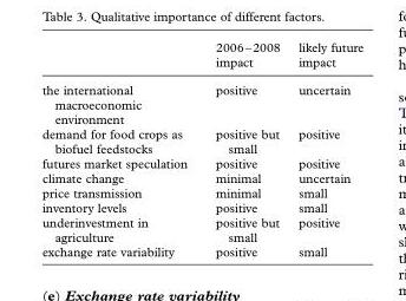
<table><thead><tr><td></td><td>2006–2008 impact</td><td>likely future impact</td></tr></thead><tbody><tr><td>the international macroeconomic environment</td><td>positive</td><td>uncertain</td></tr><tr><td>demand for food crops as biofuel feedstocks</td><td>positive but small</td><td>positive</td></tr><tr><td>futures market speculation</td><td>positive</td><td>positive</td></tr><tr><td>climate change</td><td>minimal</td><td>uncertain</td></tr><tr><td>price transmission</td><td>minimal</td><td>small</td></tr><tr><td>inventory levels</td><td>positive</td><td>small</td></tr><tr><td>underinvestment in agriculture</td><td>positive but small</td><td>positive</td></tr><tr><td>exchange rate variability</td><td>positive</td><td>small</td></tr></tbody></table>